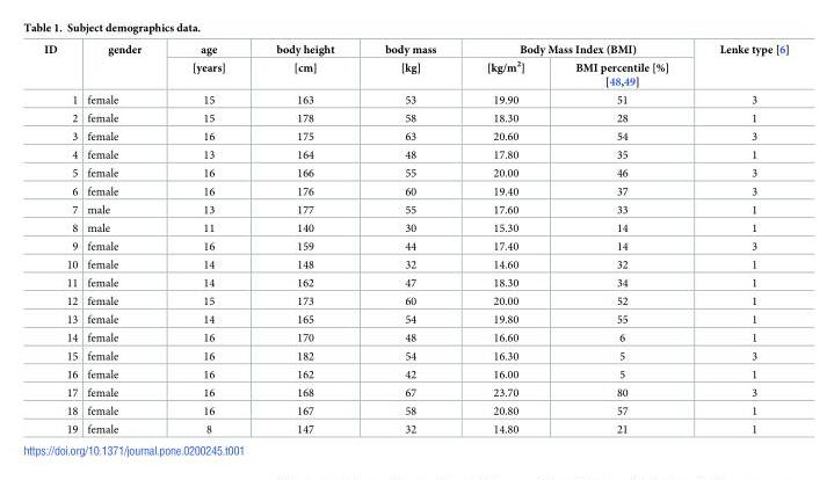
<table><thead><tr><td rowspan="2">ID</td><td rowspan="2">gender</td><td rowspan="2">age [years]</td><td rowspan="2">body height [cm]</td><td rowspan="2">body mass [kg]</td><td colspan="2">Body Mass Index (BMI)</td><td rowspan="2">Lenke type [6]</td></tr><tr><td>[kg/m<sup>2</sup>]</td><td>BMI percentile [%] [48,49]</td></tr></thead><tbody><tr><td>1</td><td>female</td><td>15</td><td>163</td><td>53</td><td>19.90</td><td>51</td><td>3</td></tr><tr><td>2</td><td>female</td><td>15</td><td>178</td><td>58</td><td>18.30</td><td>28</td><td>1</td></tr><tr><td>3</td><td>female</td><td>16</td><td>175</td><td>63</td><td>20.60</td><td>54</td><td>3</td></tr><tr><td>4</td><td>female</td><td>13</td><td>164</td><td>48</td><td>17.80</td><td>35</td><td>1</td></tr><tr><td>5</td><td>female</td><td>16</td><td>166</td><td>55</td><td>20.00</td><td>46</td><td>3</td></tr><tr><td>6</td><td>female</td><td>16</td><td>176</td><td>60</td><td>19.40</td><td>37</td><td>3</td></tr><tr><td>7</td><td>male</td><td>13</td><td>177</td><td>55</td><td>17.60</td><td>33</td><td>1</td></tr><tr><td>8</td><td>male</td><td>11</td><td>140</td><td>30</td><td>15.30</td><td>14</td><td>1</td></tr><tr><td>9</td><td>female</td><td>16</td><td>159</td><td>44</td><td>17.40</td><td>14</td><td>3</td></tr><tr><td>10</td><td>female</td><td>14</td><td>148</td><td>32</td><td>14.60</td><td>32</td><td>1</td></tr><tr><td>11</td><td>female</td><td>14</td><td>162</td><td>47</td><td>18.30</td><td>34</td><td>1</td></tr><tr><td>12</td><td>female</td><td>15</td><td>173</td><td>60</td><td>20.00</td><td>52</td><td>1</td></tr><tr><td>13</td><td>female</td><td>14</td><td>165</td><td>54</td><td>19.80</td><td>55</td><td>1</td></tr><tr><td>14</td><td>female</td><td>16</td><td>170</td><td>48</td><td>16.60</td><td>6</td><td>1</td></tr><tr><td>15</td><td>female</td><td>16</td><td>182</td><td>54</td><td>16.30</td><td>5</td><td>3</td></tr><tr><td>16</td><td>female</td><td>16</td><td>162</td><td>42</td><td>16.00</td><td>5</td><td>1</td></tr><tr><td>17</td><td>female</td><td>16</td><td>168</td><td>67</td><td>23.70</td><td>80</td><td>3</td></tr><tr><td>18</td><td>female</td><td>16</td><td>167</td><td>58</td><td>20.80</td><td>57</td><td>1</td></tr><tr><td>19</td><td>female</td><td>8</td><td>147</td><td>32</td><td>14.80</td><td>21</td><td>1</td></tr></tbody></table>